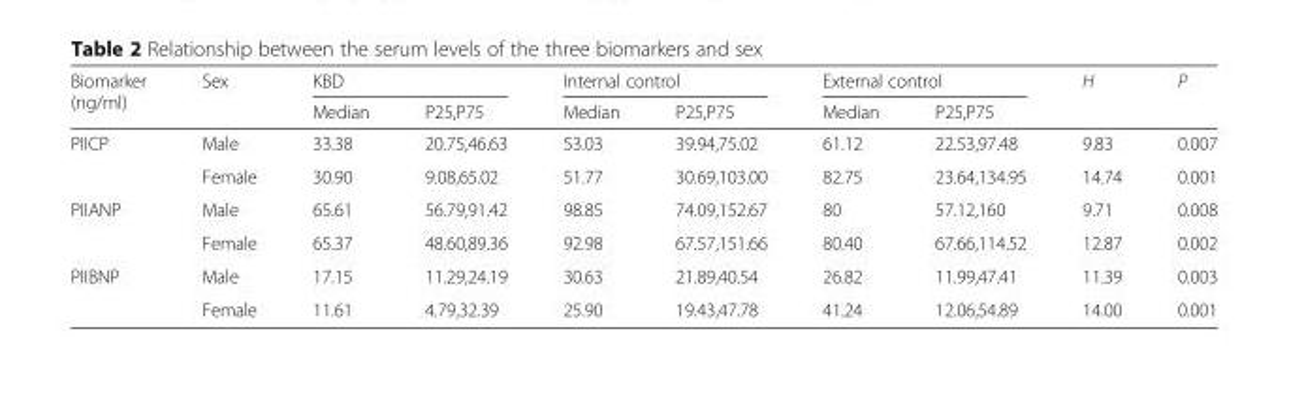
<table><thead><tr><td rowspan="2">Biomarker (ng/ml)</td><td rowspan="2">Sex</td><td colspan="2">KBD</td><td colspan="2">Internal control</td><td colspan="2">External control</td><td rowspan="2">H</td><td rowspan="2">P</td></tr><tr><td>Median</td><td>P25,P75</td><td>Median</td><td>P25,P75</td><td>Median</td><td>P25,P75</td></tr></thead><tbody><tr><td rowspan="2">PIICP</td><td>Male</td><td>33.38</td><td>20.75,46.63</td><td>53.03</td><td>39.94,75.02</td><td>61.12</td><td>22.53,97.48</td><td>9.83</td><td>0.007</td></tr><tr><td>Female</td><td>30.90</td><td>9.08,65.02</td><td>51.77</td><td>30.69,103.00</td><td>82.75</td><td>23.64,134.95</td><td>14.74</td><td>0.001</td></tr><tr><td rowspan="2">PIIANP</td><td>Male</td><td>65.61</td><td>56.79,91.42</td><td>98.85</td><td>74.09,152.67</td><td>80</td><td>57.12,160</td><td>9.71</td><td>0.008</td></tr><tr><td>Female</td><td>65.37</td><td>48.60,89.36</td><td>92.98</td><td>67.57,151.66</td><td>80.40</td><td>67.66,114.52</td><td>12.87</td><td>0.002</td></tr><tr><td rowspan="2">PIIBNP</td><td>Male</td><td>17.15</td><td>11.29,24.19</td><td>30.63</td><td>21.89,40.54</td><td>26.82</td><td>11.99,47.41</td><td>11.39</td><td>0.003</td></tr><tr><td>Female</td><td>11.61</td><td>4.79,32.39</td><td>25.90</td><td>19.43,47.78</td><td>41.24</td><td>12.06,54.89</td><td>14.00</td><td>0.001</td></tr></tbody></table>